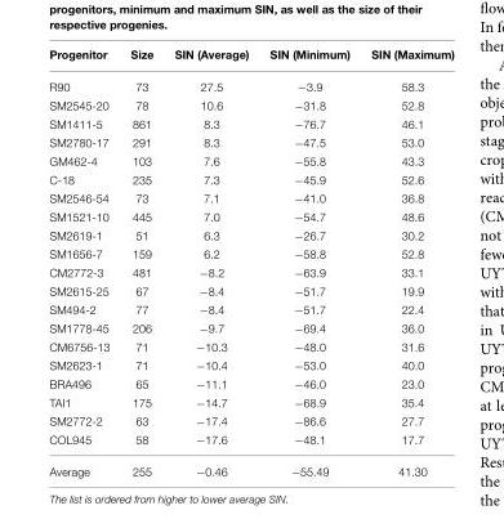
<table><thead><tr><td>Progenitor</td><td>Size</td><td>SIN (Average)</td><td>SIN (Minimum)</td><td>SIN (Maximum)</td></tr></thead><tbody><tr><td>R90</td><td>73</td><td>27.5</td><td>−3.9</td><td>58.3</td></tr><tr><td>SM2545-20</td><td>78</td><td>10.6</td><td>−31.8</td><td>52.8</td></tr><tr><td>SM1411-5</td><td>861</td><td>8.3</td><td>−76.7</td><td>46.1</td></tr><tr><td>SM2780-17</td><td>291</td><td>8.3</td><td>−47.5</td><td>53.0</td></tr><tr><td>GM462-4</td><td>103</td><td>7.6</td><td>−55.8</td><td>43.3</td></tr><tr><td>C-18</td><td>235</td><td>7.3</td><td>−45.9</td><td>52.6</td></tr><tr><td>SM2546-54</td><td>73</td><td>7.1</td><td>−41.0</td><td>36.8</td></tr><tr><td>SM1521-10</td><td>445</td><td>7.0</td><td>−54.7</td><td>48.6</td></tr><tr><td>SM2619-1</td><td>51</td><td>6.3</td><td>−26.7</td><td>30.2</td></tr><tr><td>SM1656-7</td><td>159</td><td>6.2</td><td>−58.8</td><td>52.8</td></tr><tr><td>CM2772-3</td><td>481</td><td>−8.2</td><td>−63.9</td><td>33.1</td></tr><tr><td>SM2615-25</td><td>67</td><td>−8.4</td><td>−51.7</td><td>19.9</td></tr><tr><td>SM494-2</td><td>77</td><td>−8.4</td><td>−51.7</td><td>22.4</td></tr><tr><td>SM1778-45</td><td>206</td><td>−9.7</td><td>−69.4</td><td>36.0</td></tr><tr><td>CM6756-13</td><td>71</td><td>−10.3</td><td>−48.0</td><td>31.6</td></tr><tr><td>SM2623-1</td><td>71</td><td>−10.4</td><td>−53.0</td><td>40.0</td></tr><tr><td>BRA496</td><td>65</td><td>−11.1</td><td>−46.0</td><td>23.0</td></tr><tr><td>TAI1</td><td>175</td><td>−14.7</td><td>−68.9</td><td>35.4</td></tr><tr><td>SM2772-2</td><td>63</td><td>−17.4</td><td>−86.6</td><td>27.7</td></tr><tr><td>COL945</td><td>58</td><td>−17.6</td><td>−48.1</td><td>17.7</td></tr><tr><td>Average</td><td>255</td><td>−0.46</td><td>−55.49</td><td>41.30</td></tr></tbody></table>